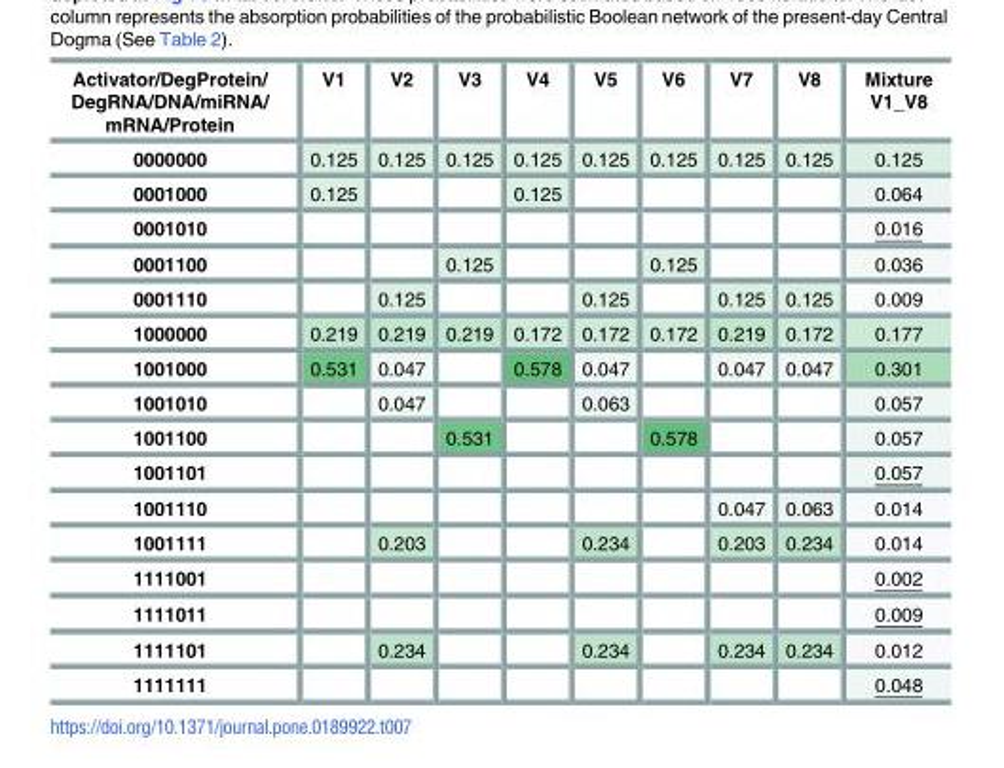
<table><thead><tr><td>Activator/DegProtein/ DegRNA/DNA/miRNA/ mRNA/Protein</td><td>V1</td><td>V2</td><td>V3</td><td>V4</td><td>V5</td><td>V6</td><td>V7</td><td>V8</td><td>Mixture V1_V8</td></tr></thead><tbody><tr><td>0000000</td><td>0.125</td><td>0.125</td><td>0.125</td><td>0.125</td><td>0.125</td><td>0.125</td><td>0.125</td><td>0.125</td><td>0.125</td></tr><tr><td>0001000</td><td>0.125</td><td></td><td></td><td>0.125</td><td></td><td></td><td></td><td></td><td>0.064</td></tr><tr><td>0001010</td><td></td><td></td><td></td><td></td><td></td><td></td><td></td><td></td><td>0.016</td></tr><tr><td>0001100</td><td></td><td></td><td>0.125</td><td></td><td></td><td>0.125</td><td></td><td></td><td>0.036</td></tr><tr><td>0001110</td><td></td><td>0.125</td><td></td><td></td><td>0.125</td><td></td><td>0.125</td><td>0.125</td><td>0.009</td></tr><tr><td>1000000</td><td>0.219</td><td>0.219</td><td>0.219</td><td>0.172</td><td>0.172</td><td>0.172</td><td>0.219</td><td>0.172</td><td>0.177</td></tr><tr><td>1001000</td><td>0.531</td><td>0.047</td><td></td><td>0.578</td><td>0.047</td><td></td><td>0.047</td><td>0.047</td><td>0.301</td></tr><tr><td>1001010</td><td></td><td>0.047</td><td></td><td></td><td>0.063</td><td></td><td></td><td></td><td>0.057</td></tr><tr><td>1001100</td><td></td><td></td><td>0.531</td><td></td><td></td><td>0.578</td><td></td><td></td><td>0.057</td></tr><tr><td>1001101</td><td></td><td></td><td></td><td></td><td></td><td></td><td></td><td></td><td>0.057</td></tr><tr><td>1001110</td><td></td><td></td><td></td><td></td><td></td><td></td><td>0.047</td><td>0.063</td><td>0.014</td></tr><tr><td>1001111</td><td></td><td>0.203</td><td></td><td></td><td>0.234</td><td></td><td>0.203</td><td>0.234</td><td>0.014</td></tr><tr><td>1111001</td><td></td><td></td><td></td><td></td><td></td><td></td><td></td><td></td><td>0.002</td></tr><tr><td>1111011</td><td></td><td></td><td></td><td></td><td></td><td></td><td></td><td></td><td>0.009</td></tr><tr><td>1111101</td><td></td><td>0.234</td><td></td><td></td><td>0.234</td><td></td><td>0.234</td><td>0.234</td><td>0.012</td></tr><tr><td>1111111</td><td></td><td></td><td></td><td></td><td></td><td></td><td></td><td></td><td>0.048</td></tr></tbody></table>